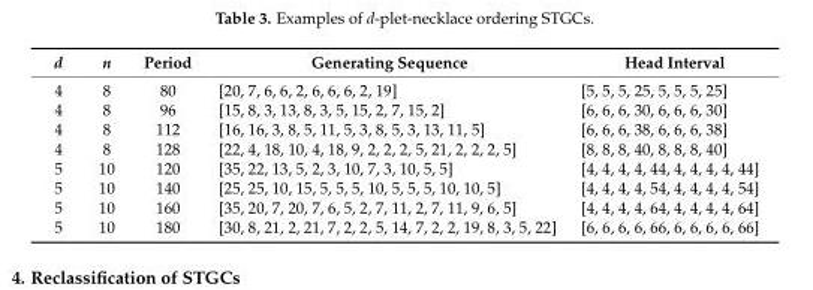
<table><thead><tr><td>d</td><td>n</td><td>Period</td><td>Generating Sequence</td><td>Head Interval</td></tr></thead><tbody><tr><td>4</td><td>8</td><td>80</td><td>[20, 7, 6, 6, 2, 6, 6, 6, 2, 19]</td><td>[5, 5, 5, 25, 5, 5, 5, 25]</td></tr><tr><td>4</td><td>8</td><td>96</td><td>[15, 8, 3, 13, 8, 3, 5, 15, 2, 7, 15, 2]</td><td>[6, 6, 6, 30, 6, 6, 6, 30]</td></tr><tr><td>4</td><td>8</td><td>112</td><td>[16, 16, 3, 8, 5, 11, 5, 3, 8, 5, 3, 13, 11, 5]</td><td>[6, 6, 6, 38, 6, 6, 6, 38]</td></tr><tr><td>4</td><td>8</td><td>128</td><td>[22, 4, 18, 10, 4, 18, 9, 2, 2, 2, 5, 21, 2, 2, 2, 5]</td><td>[8, 8, 8, 40, 8, 8, 8, 40]</td></tr><tr><td>5</td><td>10</td><td>120</td><td>[35, 22, 13, 5, 2, 3, 10, 7, 3, 10, 5, 5]</td><td>[4, 4, 4, 4, 44, 4, 4, 4, 4, 44]</td></tr><tr><td>5</td><td>10</td><td>140</td><td>[25, 25, 10, 15, 5, 5, 5, 10, 5, 5, 5, 10, 10, 5]</td><td>[4, 4, 4, 4, 54, 4, 4, 4, 4, 54]</td></tr><tr><td>5</td><td>10</td><td>160</td><td>[35, 20, 7, 20, 7, 6, 5, 2, 7, 11, 2, 7, 11, 9, 6, 5]</td><td>[4, 4, 4, 4, 64, 4, 4, 4, 4, 64]</td></tr><tr><td>5</td><td>10</td><td>180</td><td>[30, 8, 21, 2, 21, 7, 2, 2, 5, 14, 7, 2, 2, 19, 8, 3, 5, 22]</td><td>[6, 6, 6, 6, 66, 6, 6, 6, 6, 66]</td></tr></tbody></table>